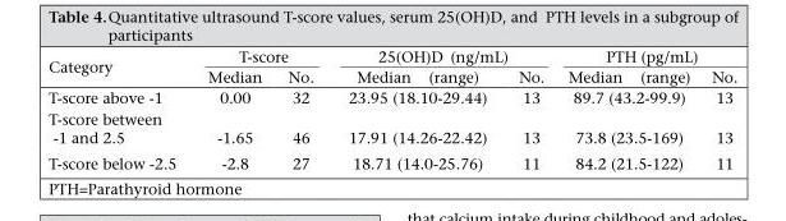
<table><thead><tr><td rowspan="2">Category</td><td colspan="2">T-score</td><td colspan="2">25(OH)D (ng/mL)</td><td colspan="2">PTH (pg/mL)</td></tr><tr><td>Median</td><td>No.</td><td>Median (range)</td><td>No.</td><td>Median (range)</td><td>No.</td></tr></thead><tbody><tr><td>T-score above -1</td><td>0.00</td><td>32</td><td>23.95 (18.10-29.44)</td><td>13</td><td>89.7 (43.2-99.9)</td><td>13</td></tr><tr><td>T-score between -1 and 2.5</td><td>-1.65</td><td>46</td><td>17.91 (14.26-22.42)</td><td>13</td><td>73.8 (23.5-169)</td><td>13</td></tr><tr><td>T-score below -2.5</td><td>-2.8</td><td>27</td><td>18.71 (14.0-25.76)</td><td>11</td><td>84.2 (21.5-122)</td><td>11</td></tr></tbody></table>